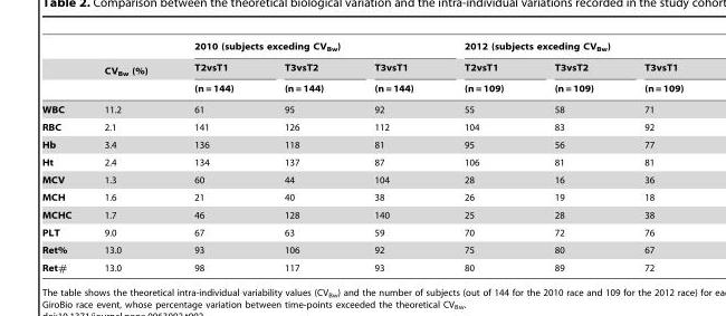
<table><thead><tr><td rowspan="3"></td><td rowspan="3">CV<sub>Bw</sub> (%)</td><td colspan="3">2010 (subjects exceding CV<sub>Bw</sub>)</td><td colspan="3">2012 (subjects exceding CV<sub>Bw</sub>)</td></tr><tr><td rowspan="2">T2vsT1 (n = 144)</td><td rowspan="2">T3vsT2 (n = 144)</td><td rowspan="2">T3vsT1 (n = 144)</td><td rowspan="2">T2vsT1 (n = 109)</td><td rowspan="2">T3vsT2 (n = 109)</td><td rowspan="2">T3vsT1 (n = 109)</td></tr><tr></tr></thead><tbody><tr><td>WBC</td><td>11.2</td><td>61</td><td>95</td><td>92</td><td>55</td><td>58</td><td>71</td></tr><tr><td>RBC</td><td>2.1</td><td>141</td><td>126</td><td>112</td><td>104</td><td>83</td><td>92</td></tr><tr><td>Hb</td><td>3.4</td><td>136</td><td>118</td><td>81</td><td>95</td><td>56</td><td>77</td></tr><tr><td>Ht</td><td>2.4</td><td>134</td><td>137</td><td>87</td><td>106</td><td>81</td><td>81</td></tr><tr><td>MCV</td><td>1.3</td><td>60</td><td>44</td><td>104</td><td>28</td><td>16</td><td>36</td></tr><tr><td>MCH</td><td>1.6</td><td>21</td><td>40</td><td>38</td><td>26</td><td>19</td><td>18</td></tr><tr><td>MCHC</td><td>1.7</td><td>46</td><td>128</td><td>140</td><td>25</td><td>28</td><td>38</td></tr><tr><td>PLT</td><td>9.0</td><td>67</td><td>63</td><td>59</td><td>70</td><td>72</td><td>76</td></tr><tr><td>Ret%</td><td>13.0</td><td>93</td><td>106</td><td>92</td><td>75</td><td>80</td><td>67</td></tr><tr><td>Ret#</td><td>13.0</td><td>98</td><td>117</td><td>93</td><td>80</td><td>89</td><td>72</td></tr></tbody></table>